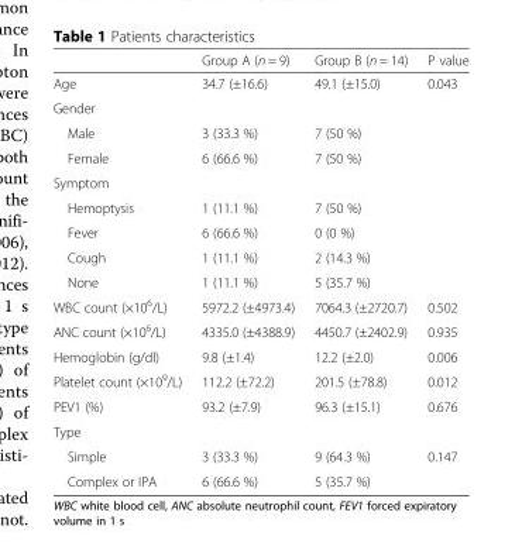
<table><thead><tr><td></td><td>Group A (n = 9)</td><td>Group B (n = 14)</td><td>P value</td></tr></thead><tbody><tr><td>Age</td><td>34.7 (±16.6)</td><td>49.1 (±15.0)</td><td>0.043</td></tr><tr><td colspan="4">Gender</td></tr><tr><td>Male</td><td>3 (33.3 %)</td><td>7 (50 %)</td><td></td></tr><tr><td>Female</td><td>6 (66.6 %)</td><td>7 (50 %)</td><td></td></tr><tr><td colspan="4">Symptom</td></tr><tr><td>Hemoptysis</td><td>1 (11.1 %)</td><td>7 (50 %)</td><td></td></tr><tr><td>Fever</td><td>6 (66.6 %)</td><td>0 (0 %)</td><td></td></tr><tr><td>Cough</td><td>1 (11.1 %)</td><td>2 (14.3 %)</td><td></td></tr><tr><td>None</td><td>1 (11.1 %)</td><td>5 (35.7 %)</td><td></td></tr><tr><td>WBC count (×10<sup>6</sup>/L)</td><td>5972.2 (±4973.4)</td><td>7064.3 (±2720.7)</td><td>0.502</td></tr><tr><td>ANC count (×10<sup>6</sup>/L)</td><td>4335.0 (±4388.9)</td><td>4450.7 (±2402.9)</td><td>0.935</td></tr><tr><td>Hemoglobin (g/dl)</td><td>9.8 (±1.4)</td><td>12.2 (±2.0)</td><td>0.006</td></tr><tr><td>Platelet count (×10<sup>9</sup>/L)</td><td>112.2 (±72.2)</td><td>201.5 (±78.8)</td><td>0.012</td></tr><tr><td>PEV1 (%)</td><td>93.2 (±7.9)</td><td>96.3 (±15.1)</td><td>0.676</td></tr><tr><td colspan="4">Type</td></tr><tr><td>Simple</td><td>3 (33.3 %)</td><td>9 (64.3 %)</td><td rowspan="2">0.147</td></tr><tr><td>Complex or IPA</td><td>6 (66.6 %)</td><td>5 (35.7 %)</td></tr></tbody></table>